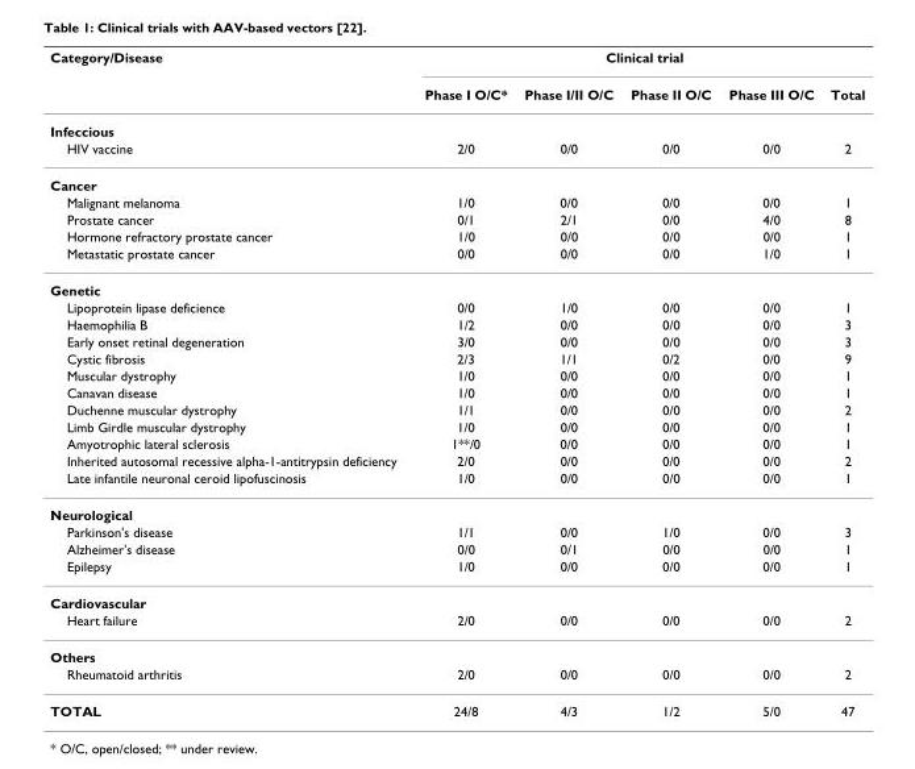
<table><thead><tr><td rowspan="2">Category/Disease</td><td colspan="5">Clinical trial</td></tr><tr><td>Phase I O/C*</td><td>Phase I/II O/C</td><td>Phase II O/C</td><td>Phase III O/C</td><td>Total</td></tr></thead><tbody><tr><td colspan="6">Infeccious</td></tr><tr><td>HIV vaccine</td><td>2/0</td><td>0/0</td><td>0/0</td><td>0/0</td><td>2</td></tr><tr><td colspan="6">Cancer</td></tr><tr><td>Malignant melanoma</td><td>1/0</td><td>0/0</td><td>0/0</td><td>0/0</td><td>1</td></tr><tr><td>Prostate cancer</td><td>0/1</td><td>2/1</td><td>0/0</td><td>4/0</td><td>8</td></tr><tr><td>Hormone refractory prostate cancer</td><td>1/0</td><td>0/0</td><td>0/0</td><td>0/0</td><td>1</td></tr><tr><td>Metastatic prostate cancer</td><td>0/0</td><td>0/0</td><td>0/0</td><td>1/0</td><td>1</td></tr><tr><td colspan="6">Genetic</td></tr><tr><td>Lipoprotein lipase deficience</td><td>0/0</td><td>1/0</td><td>0/0</td><td>0/0</td><td>1</td></tr><tr><td>Haemophilia B</td><td>1/2</td><td>0/0</td><td>0/0</td><td>0/0</td><td>3</td></tr><tr><td>Early onset retinal degeneration</td><td>3/0</td><td>0/0</td><td>0/0</td><td>0/0</td><td>3</td></tr><tr><td>Cystic fibrosis</td><td>2/3</td><td>1/1</td><td>0/2</td><td>0/0</td><td>9</td></tr><tr><td>Muscular dystrophy</td><td>1/0</td><td>0/0</td><td>0/0</td><td>0/0</td><td>1</td></tr><tr><td>Canavan disease</td><td>1/0</td><td>0/0</td><td>0/0</td><td>0/0</td><td>1</td></tr><tr><td>Duchenne muscular dystrophy</td><td>1/1</td><td>0/0</td><td>0/0</td><td>0/0</td><td>2</td></tr><tr><td>Limb Girdle muscular dystrophy</td><td>1/0</td><td>0/0</td><td>0/0</td><td>0/0</td><td>1</td></tr><tr><td>Amyotrophic lateral sclerosis</td><td>1**/0</td><td>0/0</td><td>0/0</td><td>0/0</td><td>1</td></tr><tr><td>Inherited autosomal recessive alpha-1-antitrypsin deficiency</td><td>2/0</td><td>0/0</td><td>0/0</td><td>0/0</td><td>2</td></tr><tr><td>Late infantile neuronal ceroid lipofuscinosis</td><td>1/0</td><td>0/0</td><td>0/0</td><td>0/0</td><td>1</td></tr><tr><td colspan="6">Neurological</td></tr><tr><td>Parkinson&#x27;s disease</td><td>1/1</td><td>0/0</td><td>1/0</td><td>0/0</td><td>3</td></tr><tr><td>Alzheimer&#x27;s disease</td><td>0/0</td><td>0/1</td><td>0/0</td><td>0/0</td><td>1</td></tr><tr><td>Epilepsy</td><td>1/0</td><td>0/0</td><td>0/0</td><td>0/0</td><td>1</td></tr><tr><td colspan="6">Cardiovascular</td></tr><tr><td>Heart failure</td><td>2/0</td><td>0/0</td><td>0/0</td><td>0/0</td><td>2</td></tr><tr><td colspan="6">Others</td></tr><tr><td>Rheumatoid arthritis</td><td>2/0</td><td>0/0</td><td>0/0</td><td>0/0</td><td>2</td></tr><tr><td>TOTAL</td><td>24/8</td><td>4/3</td><td>1/2</td><td>5/0</td><td>47</td></tr></tbody></table>